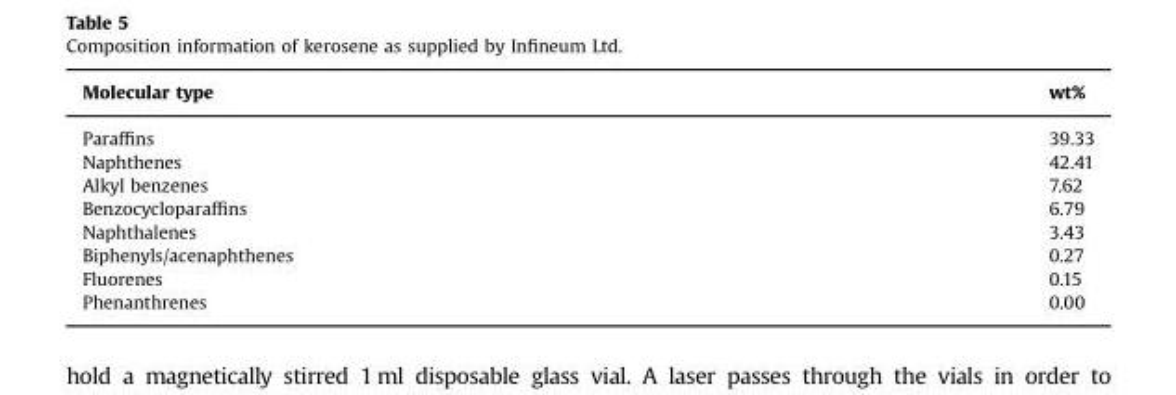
<table><thead><tr><td>Molecular type</td><td>wt%</td></tr></thead><tbody><tr><td>Paraffins</td><td>39.33</td></tr><tr><td>Naphthenes</td><td>42.41</td></tr><tr><td>Alkyl benzenes</td><td>7.62</td></tr><tr><td>Benzocycloparaffins</td><td>6.79</td></tr><tr><td>Naphthalenes</td><td>3.43</td></tr><tr><td>Biphenyls/acenaphthenes</td><td>0.27</td></tr><tr><td>Fluorenes</td><td>0.15</td></tr><tr><td>Phenanthrenes</td><td>0.00</td></tr></tbody></table>